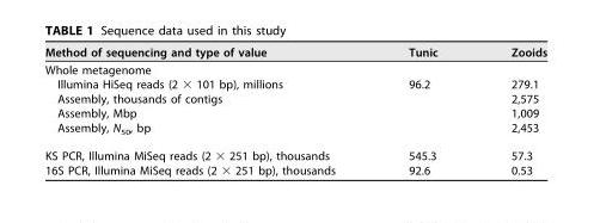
<table><thead><tr><td>Method of sequencing and type of value</td><td>Tunic</td><td>Zooids</td></tr></thead><tbody><tr><td colspan="3">Whole metagenome</td></tr><tr><td>Illumina HiSeq reads (2 × 101 bp), millions</td><td>96.2</td><td>279.1</td></tr><tr><td>Assembly, thousands of contigs</td><td></td><td>2,575</td></tr><tr><td>Assembly, Mbp</td><td></td><td>1,009</td></tr><tr><td>Assembly, N<sub>50</sub>, bp</td><td></td><td>2,453</td></tr><tr><td>KS PCR, Illumina MiSeq reads (2 × 251 bp), thousands</td><td>545.3</td><td>57.3</td></tr><tr><td>16S PCR, Illumina MiSeq reads (2 × 251 bp), thousands</td><td>92.6</td><td>0.53</td></tr></tbody></table>